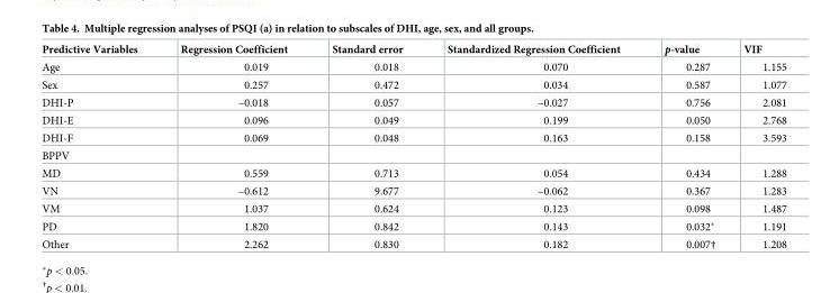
<table><thead><tr><td>Predictive Variables</td><td>Regression Coefficient</td><td>Standard error</td><td>Standardized Regression Coefficient</td><td>p-value</td><td>VIF</td></tr></thead><tbody><tr><td>Age</td><td>0.019</td><td>0.018</td><td>0.070</td><td>0.287</td><td>1.155</td></tr><tr><td>Sex</td><td>0.257</td><td>0.472</td><td>0.034</td><td>0.587</td><td>1.077</td></tr><tr><td>DHI-P</td><td>–0.018</td><td>0.057</td><td>–0.027</td><td>0.756</td><td>2.081</td></tr><tr><td>DHI-E</td><td>0.096</td><td>0.049</td><td>0.199</td><td>0.050</td><td>2.768</td></tr><tr><td>DHI-F</td><td>0.069</td><td>0.048</td><td>0.163</td><td>0.158</td><td>3.593</td></tr><tr><td colspan="6">BPPV</td></tr><tr><td>MD</td><td>0.559</td><td>0.713</td><td>0.054</td><td>0.434</td><td>1.288</td></tr><tr><td>VN</td><td>–0.612</td><td>9.677</td><td>–0.062</td><td>0.367</td><td>1.283</td></tr><tr><td>VM</td><td>1.037</td><td>0.624</td><td>0.123</td><td>0.098</td><td>1.487</td></tr><tr><td>PD</td><td>1.820</td><td>0.842</td><td>0.143</td><td>0.032*</td><td>1.191</td></tr><tr><td>Other</td><td>2.262</td><td>0.830</td><td>0.182</td><td>0.007†</td><td>1.208</td></tr></tbody></table>